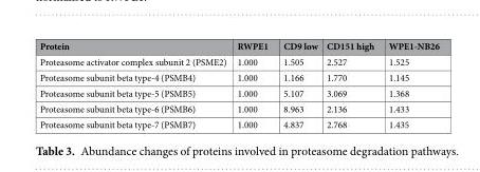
<table><thead><tr><td>Protein</td><td>RWPE1</td><td>CD9 low</td><td>CD151 high</td><td>WPE1-NB26</td></tr></thead><tbody><tr><td>Proteasome activator complex subunit 2 (PSME2)</td><td>1.000</td><td>1.505</td><td>2.527</td><td>1.525</td></tr><tr><td>Proteasome subunit beta type-4 (PSMB4)</td><td>1.000</td><td>1.166</td><td>1.770</td><td>1.145</td></tr><tr><td>Proteasome subunit beta type-5 (PSMB5)</td><td>1.000</td><td>5.107</td><td>3.069</td><td>1.368</td></tr><tr><td>Proteasome subunit beta type-6 (PSMB6)</td><td>1.000</td><td>8.963</td><td>2.136</td><td>1.433</td></tr><tr><td>Proteasome subunit beta type-7 (PSMB7)</td><td>1.000</td><td>4.837</td><td>2.768</td><td>1.435</td></tr></tbody></table>